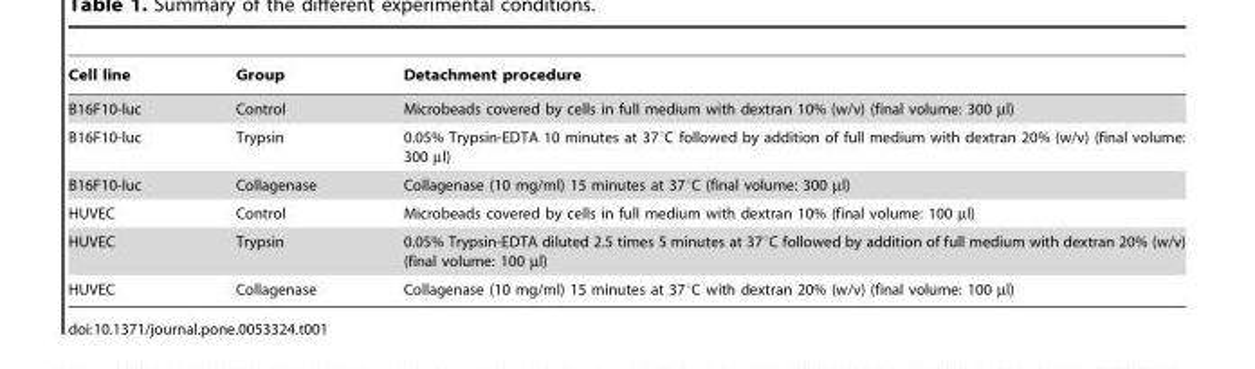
<table><thead><tr><td>Cell line</td><td>Group</td><td>Detachment procedure</td></tr></thead><tbody><tr><td>B16F10-luc</td><td>Control</td><td>Microbeads covered by cells in full medium with dextran 10% (w/v) (final volume: 300 µl)</td></tr><tr><td>B16F10-luc</td><td>Trypsin</td><td>0.05% Trypsin-EDTA 10 minutes at 37°C followed by addition of full medium with dextran 20% (w/v) (final volume: 300 µl)</td></tr><tr><td>B16F10-luc</td><td>Collagenase</td><td>Collagenase (10 mg/ml) 15 minutes at 37°C (final volume: 300 µl)</td></tr><tr><td>HUVEC</td><td>Control</td><td>Microbeads covered by cells in full medium with dextran 10% (final volume: 100 µl)</td></tr><tr><td>HUVEC</td><td>Trypsin</td><td>0.05% Trypsin-EDTA diluted 2.5 times 5 minutes at 37°C followed by addition of full medium with dextran 20% (w/v) (final volume: 100 µl)</td></tr><tr><td>HUVEC</td><td>Collagenase</td><td>Collagenase (10 mg/ml) 15 minutes at 37°C with dextran 20% (w/v) (final volume: 100 µl)</td></tr></tbody></table>